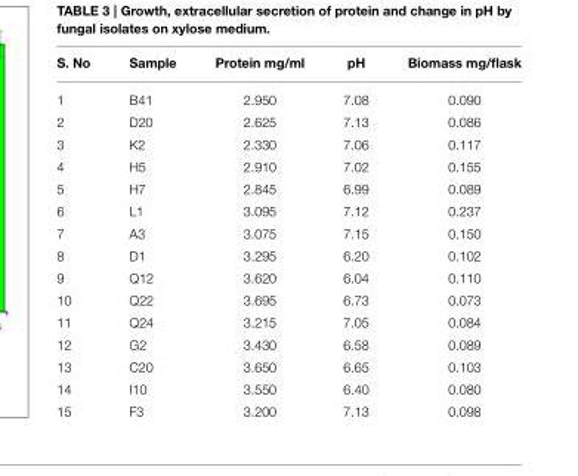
<table><thead><tr><td>S. No</td><td>Sample</td><td>Protein mg/ml</td><td>pH</td><td>Biomass mg/flask</td></tr></thead><tbody><tr><td>1</td><td>B41</td><td>2.950</td><td>7.08</td><td>0.090</td></tr><tr><td>2</td><td>D20</td><td>2.625</td><td>7.13</td><td>0.086</td></tr><tr><td>3</td><td>K2</td><td>2.330</td><td>7.06</td><td>0.117</td></tr><tr><td>4</td><td>H5</td><td>2.910</td><td>7.02</td><td>0.155</td></tr><tr><td>5</td><td>H7</td><td>2.845</td><td>6.99</td><td>0.089</td></tr><tr><td>6</td><td>L1</td><td>3.095</td><td>7.12</td><td>0.237</td></tr><tr><td>7</td><td>A3</td><td>3.075</td><td>7.15</td><td>0.150</td></tr><tr><td>8</td><td>D1</td><td>3.295</td><td>6.20</td><td>0.102</td></tr><tr><td>9</td><td>Q12</td><td>3.620</td><td>6.04</td><td>0.110</td></tr><tr><td>10</td><td>Q22</td><td>3.695</td><td>6.73</td><td>0.073</td></tr><tr><td>11</td><td>Q24</td><td>3.215</td><td>7.05</td><td>0.084</td></tr><tr><td>12</td><td>G2</td><td>3.430</td><td>6.58</td><td>0.089</td></tr><tr><td>13</td><td>C20</td><td>3.650</td><td>6.65</td><td>0.103</td></tr><tr><td>14</td><td>I10</td><td>3.550</td><td>6.40</td><td>0.080</td></tr><tr><td>15</td><td>F3</td><td>3.200</td><td>7.13</td><td>0.098</td></tr></tbody></table>